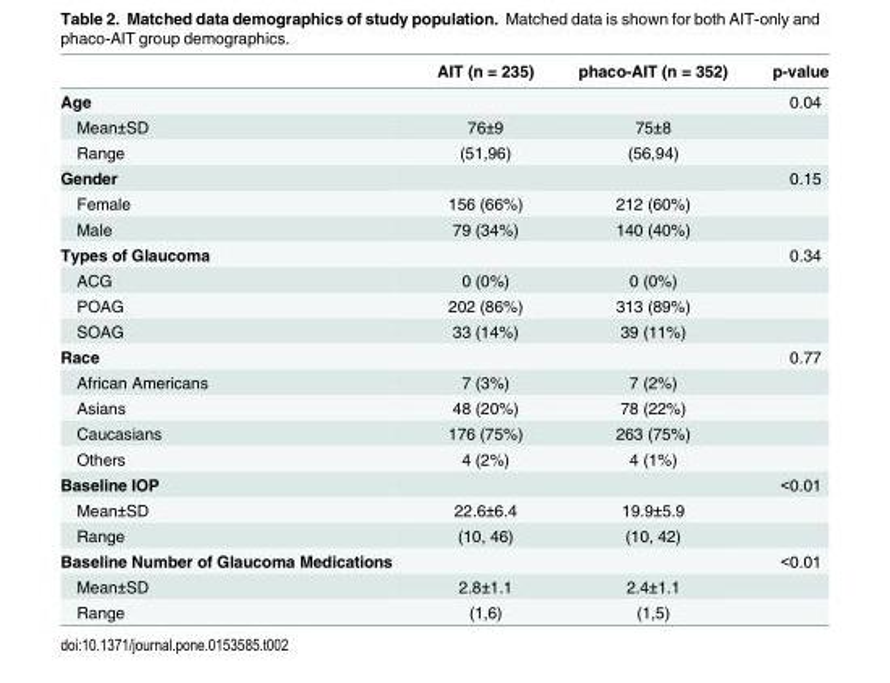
<table><thead><tr><td></td><td>AIT (n = 235)</td><td>phaco-AIT (n = 352)</td><td>p-value</td></tr></thead><tbody><tr><td>Age</td><td></td><td></td><td>0.04</td></tr><tr><td>Mean±SD</td><td>76±9</td><td>75±8</td><td></td></tr><tr><td>Range</td><td>(51,96)</td><td>(56,94)</td><td></td></tr><tr><td>Gender</td><td></td><td></td><td>0.15</td></tr><tr><td>Female</td><td>156 (66%)</td><td>212 (60%)</td><td></td></tr><tr><td>Male</td><td>79 (34%)</td><td>140 (40%)</td><td></td></tr><tr><td>Types of Glaucoma</td><td></td><td></td><td>0.34</td></tr><tr><td>ACG</td><td>0 (0%)</td><td>0 (0%)</td><td></td></tr><tr><td>POAG</td><td>202 (86%)</td><td>313 (89%)</td><td></td></tr><tr><td>SOAG</td><td>33 (14%)</td><td>39 (11%)</td><td></td></tr><tr><td>Race</td><td></td><td></td><td>0.77</td></tr><tr><td>African Americans</td><td>7 (3%)</td><td>7 (2%)</td><td></td></tr><tr><td>Asians</td><td>48 (20%)</td><td>78 (22%)</td><td></td></tr><tr><td>Caucasians</td><td>176 (75%)</td><td>263 (75%)</td><td></td></tr><tr><td>Others</td><td>4 (2%)</td><td>4 (1%)</td><td></td></tr><tr><td>Baseline IOP</td><td></td><td></td><td>&lt;0.01</td></tr><tr><td>Mean±SD</td><td>22.6±6.4</td><td>19.9±5.9</td><td></td></tr><tr><td>Range</td><td>(10, 46)</td><td>(10, 42)</td><td></td></tr><tr><td>Baseline Number of Glaucoma Medications</td><td></td><td></td><td>&lt;0.01</td></tr><tr><td>Mean±SD</td><td>2.8±1.1</td><td>2.4±1.1</td><td></td></tr><tr><td>Range</td><td>(1,6)</td><td>(1,5)</td><td></td></tr></tbody></table>